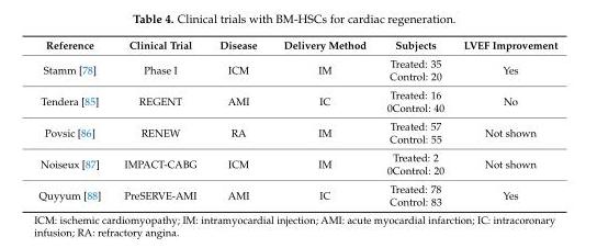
<table><thead><tr><td>Reference</td><td>Clinical Trial</td><td>Disease</td><td>Delivery Method</td><td>Subjects</td><td>LVEF Improvement</td></tr></thead><tbody><tr><td>Stamm [78]</td><td>Phase I</td><td>ICM</td><td>IM</td><td>Treated: 35 Control: 20</td><td>Yes</td></tr><tr><td>Tendera [85]</td><td>REGENT</td><td>AMI</td><td>IC</td><td>Treated: 16 0Control: 40</td><td>No</td></tr><tr><td>Povsic [86]</td><td>RENEW</td><td>RA</td><td>IM</td><td>Treated: 57 Control: 55</td><td>Not shown</td></tr><tr><td>Noiseux [87]</td><td>IMPACT-CABG</td><td>ICM</td><td>IM</td><td>Treated: 2 0Control: 20</td><td>Not shown</td></tr><tr><td>Quyyum [88]</td><td>PreSERVE-AMI</td><td>AMI</td><td>IC</td><td>Treated: 78 Control: 83</td><td>Yes</td></tr></tbody></table>